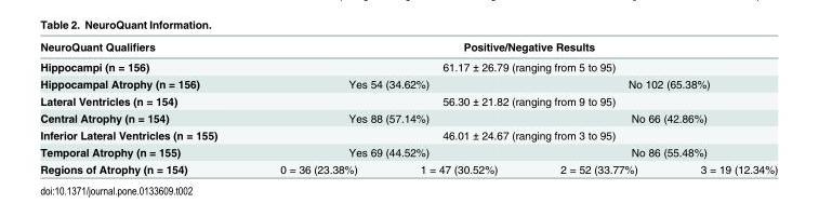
<table><thead><tr><td>NeuroQuant Qualifiers</td><td colspan="4">Positive/Negative Results</td></tr></thead><tbody><tr><td>Hippocampi (n = 156)</td><td colspan="4">61.17 ± 26.79 (ranging from 5 to 95)</td></tr><tr><td>Hippocampal Atrophy (n = 156)</td><td colspan="2">Yes 54 (34.62%)</td><td colspan="2">No 102 (65.38%)</td></tr><tr><td>Lateral Ventricles (n = 154)</td><td colspan="4">56.30 ± 21.82 (ranging from 9 to 95)</td></tr><tr><td>Central Atrophy (n = 154)</td><td colspan="2">Yes 88 (57.14%)</td><td colspan="2">No 66 (42.86%)</td></tr><tr><td>Inferior Lateral Ventricles (n = 155)</td><td colspan="4">46.01 ± 24.67 (ranging from 3 to 95)</td></tr><tr><td>Temporal Atrophy (n = 155)</td><td colspan="2">Yes 69 (44.52%)</td><td colspan="2">No 86 (55.48%)</td></tr><tr><td>Regions of Atrophy (n = 154)</td><td>0 = 36 (23.38%)</td><td>1 = 47 (30.52%)</td><td>2 = 52 (33.77%)</td><td>3 = 19 (12.34%)</td></tr></tbody></table>